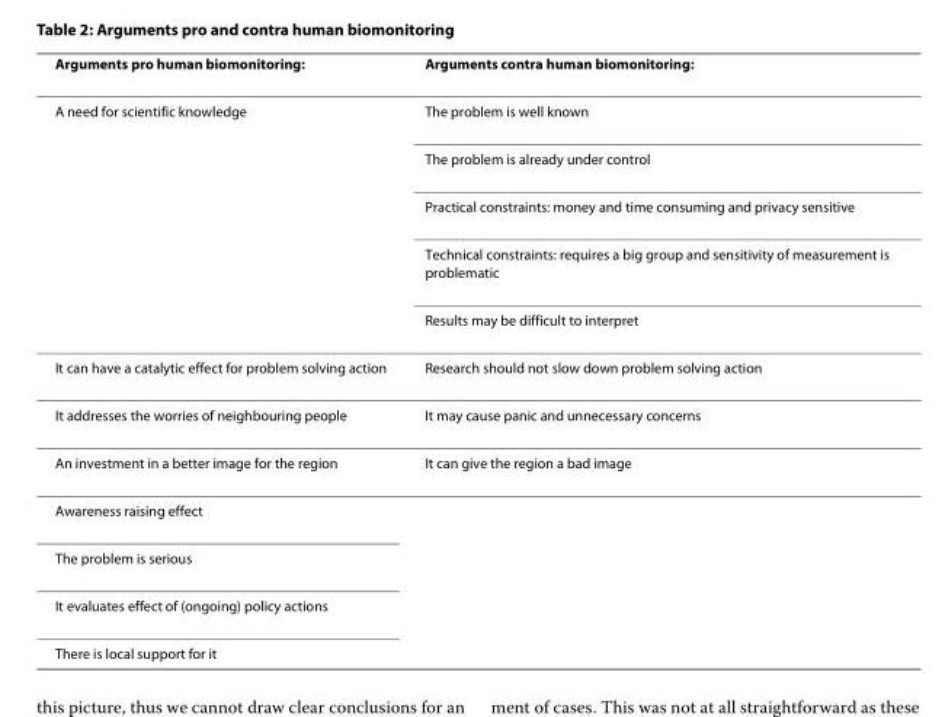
<table><thead><tr><td>Arguments pro human biomonitoring:</td><td>Arguments contra human biomonitoring:</td></tr></thead><tbody><tr><td rowspan="5">A need for scientific knowledge</td><td>The problem is well known</td></tr><tr><td>The problem is already under control</td></tr><tr><td>Practical constraints: money and time consuming and privacy sensitive</td></tr><tr><td>Technical constraints: requires a big group and sensitivity of measurement is problematic</td></tr><tr><td>Results may be difficult to interpret</td></tr><tr><td>It can have a catalytic effect for problem solving action</td><td>Research should not slow down problem solving action</td></tr><tr><td>It addresses the worries of neighbouring people</td><td>It may cause panic and unnecessary concerns</td></tr><tr><td>An investment in a better image for the region</td><td>It can give the region a bad image</td></tr><tr><td colspan="2">Awareness raising effect</td></tr><tr><td colspan="2">The problem is serious</td></tr><tr><td colspan="2">It evaluates effect of (ongoing) policy actions</td></tr><tr><td>There is local support for it</td><td></td></tr></tbody></table>